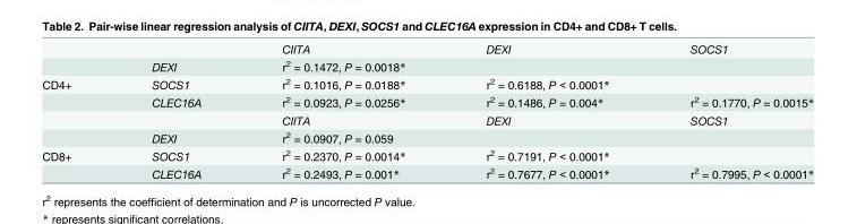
<table><thead><tr><td></td><td></td><td>CIITA</td><td>DEXI</td><td>SOCS1</td></tr></thead><tbody><tr><td></td><td>DEXI</td><td colspan="2">r<sup>2</sup> = 0.1472, P = 0.0018*</td><td></td></tr><tr><td rowspan="4">CD4+</td><td>SOCS1</td><td>r<sup>2</sup> = 0.1016, P = 0.0188*</td><td colspan="2">r<sup>2</sup> = 0.6188, P &lt; 0.0001*</td></tr><tr><td>CLEC16A</td><td>r<sup>2</sup> = 0.0923, P = 0.0256*</td><td>r<sup>2</sup> = 0.1486, P = 0.004*</td><td>r<sup>2</sup> = 0.1770, P = 0.0015*</td></tr><tr><td></td><td>CIITA</td><td>DEXI</td><td>SOCS1</td></tr><tr><td>DEXI</td><td>r<sup>2</sup> = 0.0907, P = 0.059</td><td></td><td></td></tr><tr><td rowspan="2">CD8+</td><td>SOCS1</td><td>r<sup>2</sup> = 0.2370, P = 0.0014*</td><td colspan="2">r<sup>2</sup> = 0.7191, P &lt; 0.0001*</td></tr><tr><td>CLEC16A</td><td>r<sup>2</sup> = 0.2493, P = 0.001*</td><td>r<sup>2</sup> = 0.7677, P &lt; 0.0001*</td><td>r<sup>2</sup> = 0.7995, P &lt; 0.0001*</td></tr></tbody></table>